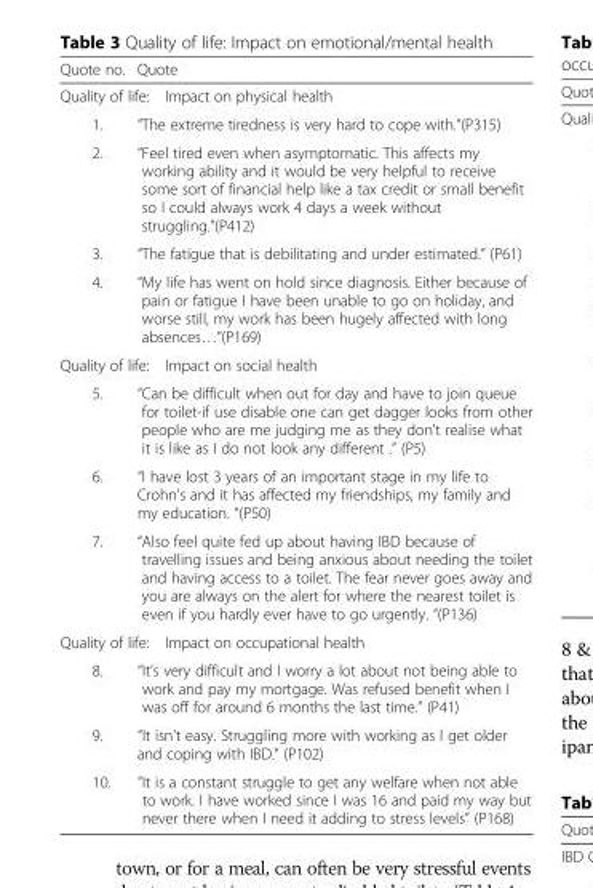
<table><thead><tr><td>Quote no.</td><td>Quote</td></tr></thead><tbody><tr><td colspan="2">Quality of life: Impact on physical health</td></tr><tr><td>1.</td><td>“The extreme tiredness is very hard to cope with.”(P315)</td></tr><tr><td>2.</td><td>“Feel tired even when asymptomatic. This affects my working ability and it would be very helpful to receive some sort of financial help like a tax credit or small benefit so I could always work 4 days a week without struggling.”(P412)</td></tr><tr><td>3.</td><td>“The fatigue that is debilitating and under estimated.” (P61)</td></tr><tr><td>4.</td><td>“My life has went on hold since diagnosis. Either because of pain or fatigue I have been unable to go on holiday, and worse still, my work has been hugely affected with long absences…”(P169)</td></tr><tr><td colspan="2">Quality of life: Impact on social health</td></tr><tr><td>5.</td><td>“Can be difficult when out for day and have to join queue for toilet-if use disable one can get dagger looks from other people who are me judging me as they don&#x27;t realise what it is like as I do not look any different .” (P5)</td></tr><tr><td>6.</td><td>“I have lost 3 years of an important stage in my life to Crohn&#x27;s and it has affected my friendships, my family and my education. “(P50)</td></tr><tr><td>7.</td><td>“Also feel quite fed up about having IBD because of travelling issues and being anxious about needing the toilet and having access to a toilet. The fear never goes away and you are always on the alert for where the nearest toilet is even if you hardly ever have to go urgently. “(P136)</td></tr><tr><td colspan="2">Quality of life: Impact on occupational health</td></tr><tr><td>8.</td><td>“It&#x27;s very difficult and I worry a lot about not being able to work and pay my mortgage. Was refused benefit when I was off for around 6 months the last time.” (P41)</td></tr><tr><td>9.</td><td>“It isn&#x27;t easy. Struggling more with working as I get older and coping with IBD.” (P102)</td></tr><tr><td>10.</td><td>“It is a constant struggle to get any welfare when not able to work. I have worked since I was 16 and paid my way but never there when I need it adding to stress levels” (P168)</td></tr></tbody></table>